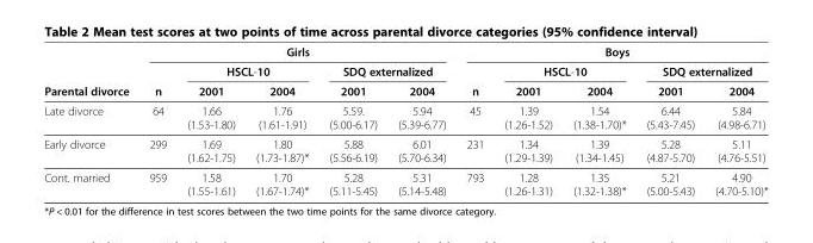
<table><thead><tr><td rowspan="3">Parental divorce</td><td colspan="5">Girls</td><td colspan="5">Boys</td></tr><tr><td rowspan="2">n</td><td colspan="2">HSCL-10</td><td colspan="2">SDQ externalized</td><td rowspan="2">n</td><td colspan="2">HSCL-10</td><td colspan="2">SDQ externalized</td></tr><tr><td>2001</td><td>2004</td><td>2001</td><td>2004</td><td>2001</td><td>2004</td><td>2001</td><td>2004</td></tr></thead><tbody><tr><td>Late divorce</td><td>64</td><td>1.66 (1.53-1.80)</td><td>1.76 (1.61-1.91)</td><td>5.59. (5.00-6.17)</td><td>5.94 (5.39-6.77)</td><td>45</td><td>1.39 (1.26-1.52)</td><td>1.54 (1.38-1.70)*</td><td>6.44 (5.43-7.45)</td><td>5.84 (4.98-6.71)</td></tr><tr><td>Early divorce</td><td>299</td><td>1.69 (1.62-1.75)</td><td>1.80 (1.73-1.87)*</td><td>5.88 (5.56-6.19)</td><td>6.01 (5.70-6.34)</td><td>231</td><td>1.34 (1.29-1.39)</td><td>1.39 (1.34-1.45)</td><td>5.28 (4.87-5.70)</td><td>5.11 (4.76-5.51)</td></tr><tr><td>Cont. married</td><td>959</td><td>1.58 (1.55-1.61)</td><td>1.70 (1.67-1.74)*</td><td>5.28 (5.11-5.45)</td><td>5.31 (5.14-5.48)</td><td>793</td><td>1.28 (1.26-1.31)</td><td>1.35 (1.32-1.38)*</td><td>5.21 (5.00-5.43)</td><td>4.90 (4.70-5.10)*</td></tr></tbody></table>